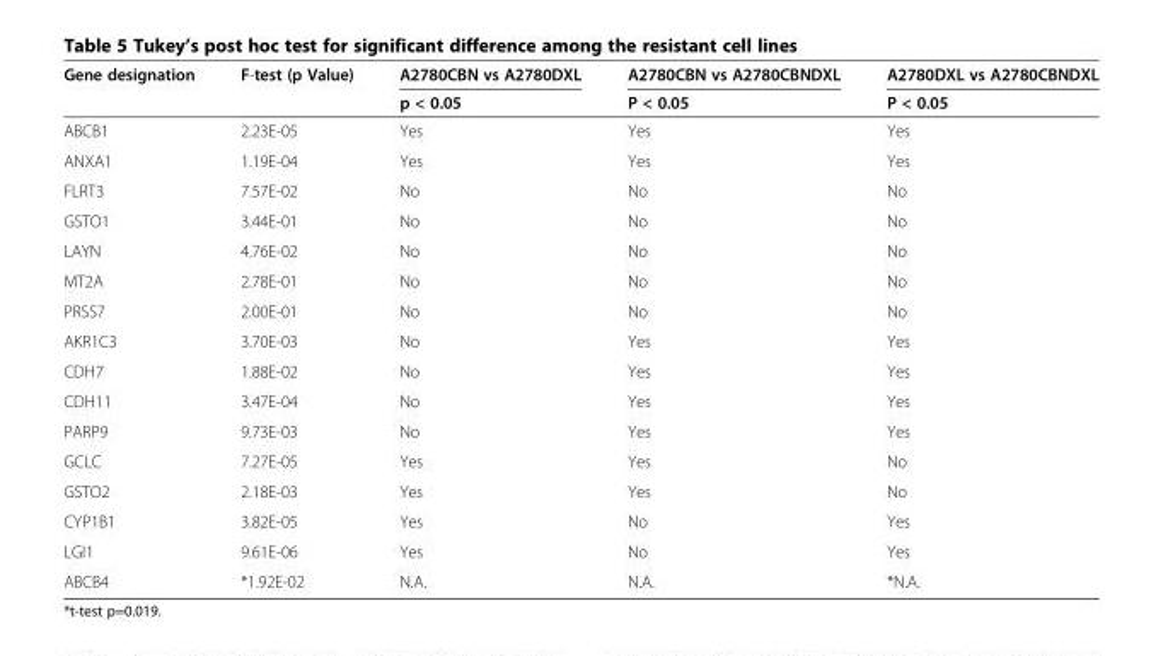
<table><thead><tr><td rowspan="2">Gene designation</td><td rowspan="2">F-test (p Value)</td><td rowspan="2">A2780CBN vs A2780DXL p &lt; 0.05</td><td rowspan="2">A2780CBN vs A2780CBNDXL P &lt; 0.05</td><td rowspan="2">A2780DXL vs A2780CBNDXL P &lt; 0.05</td></tr><tr></tr></thead><tbody><tr><td>ABCB1</td><td>2.23E-05</td><td>Yes</td><td>Yes</td><td>Yes</td></tr><tr><td>ANXA1</td><td>1.19E-04</td><td>Yes</td><td>Yes</td><td>Yes</td></tr><tr><td>FLRT3</td><td>7.57E-02</td><td>No</td><td>No</td><td>No</td></tr><tr><td>GSTO1</td><td>3.44E-01</td><td>No</td><td>No</td><td>No</td></tr><tr><td>LAYN</td><td>4.76E-02</td><td>No</td><td>No</td><td>No</td></tr><tr><td>MT2A</td><td>2.78E-01</td><td>No</td><td>No</td><td>No</td></tr><tr><td>PRSS7</td><td>2.00E-01</td><td>No</td><td>No</td><td>No</td></tr><tr><td>AKR1C3</td><td>3.70E-03</td><td>No</td><td>Yes</td><td>Yes</td></tr><tr><td>CDH7</td><td>1.88E-02</td><td>No</td><td>Yes</td><td>Yes</td></tr><tr><td>CDH11</td><td>3.47E-04</td><td>No</td><td>Yes</td><td>Yes</td></tr><tr><td>PARP9</td><td>9.73E-03</td><td>No</td><td>Yes</td><td>Yes</td></tr><tr><td>GCLC</td><td>7.27E-05</td><td>Yes</td><td>Yes</td><td>No</td></tr><tr><td>GSTO2</td><td>2.18E-03</td><td>Yes</td><td>Yes</td><td>No</td></tr><tr><td>CYP1B1</td><td>3.82E-05</td><td>Yes</td><td>No</td><td>Yes</td></tr><tr><td>LGI1</td><td>9.61E-06</td><td>Yes</td><td>No</td><td>Yes</td></tr><tr><td>ABCB4</td><td>*1.92E-02</td><td>N.A.</td><td>N.A.</td><td>*N.A.</td></tr></tbody></table>